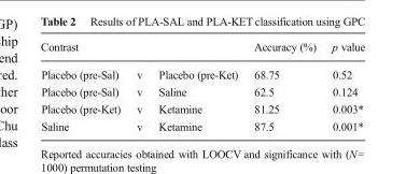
<table><thead><tr><td>Contrast</td><td></td><td></td><td>Accuracy (%)</td><td>p value</td></tr></thead><tbody><tr><td>Placebo (pre-Sal)</td><td>v</td><td>Placebo (pre-Ket)</td><td>68.75</td><td>0.52</td></tr><tr><td>Placebo (pre-Sal)</td><td>v</td><td>Saline</td><td>62.5</td><td>0.124</td></tr><tr><td>Placebo (pre-Ket)</td><td>v</td><td>Ketamine</td><td>81.25</td><td>0.003*</td></tr><tr><td>Saline</td><td>v</td><td>Ketamine</td><td>87.5</td><td>0.001*</td></tr></tbody></table>